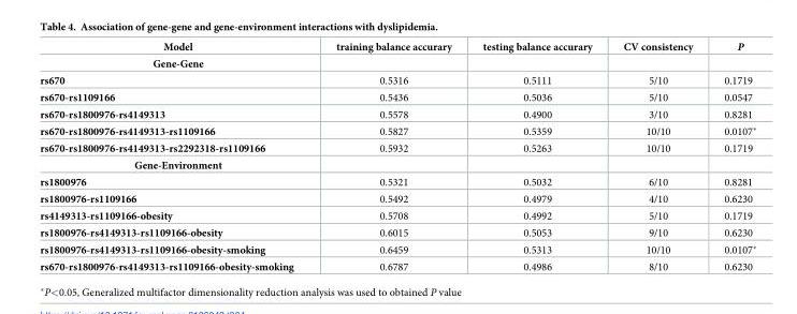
<table><thead><tr><td>Model</td><td>training balance accurary</td><td>testing balance accurary</td><td>CV consistency</td><td>P</td></tr></thead><tbody><tr><td colspan="5">Gene-Gene</td></tr><tr><td>rs670</td><td>0.5316</td><td>0.5111</td><td>5/10</td><td>0.1719</td></tr><tr><td>rs670-rs1109166</td><td>0.5436</td><td>0.5036</td><td>5/10</td><td>0.0547</td></tr><tr><td>rs670-rs1800976-rs4149313</td><td>0.5578</td><td>0.4900</td><td>3/10</td><td>0.8281</td></tr><tr><td>rs670-rs1800976-rs4149313-rs1109166</td><td>0.5827</td><td>0.5359</td><td>10/10</td><td>0.0107*</td></tr><tr><td>rs670-rs1800976-rs4149313-rs2292318-rs1109166</td><td>0.5932</td><td>0.5263</td><td>10/10</td><td>0.1719</td></tr><tr><td colspan="5">Gene-Environment</td></tr><tr><td>rs1800976</td><td>0.5321</td><td>0.5032</td><td>6/10</td><td>0.8281</td></tr><tr><td>rs1800976-rs1109166</td><td>0.5492</td><td>0.4979</td><td>4/10</td><td>0.6230</td></tr><tr><td>rs4149313-rs1109166-obesity</td><td>0.5708</td><td>0.4992</td><td>5/10</td><td>0.1719</td></tr><tr><td>rs1800976-rs4149313-rs1109166-obesity</td><td>0.6015</td><td>0.5053</td><td>9/10</td><td>0.6230</td></tr><tr><td>rs1800976-rs4149313-rs1109166-obesity-smoking</td><td>0.6459</td><td>0.5313</td><td>10/10</td><td>0.0107*</td></tr><tr><td>rs670-rs1800976-rs4149313-rs1109166-obesity-smoking</td><td>0.6787</td><td>0.4986</td><td>8/10</td><td>0.6230</td></tr></tbody></table>